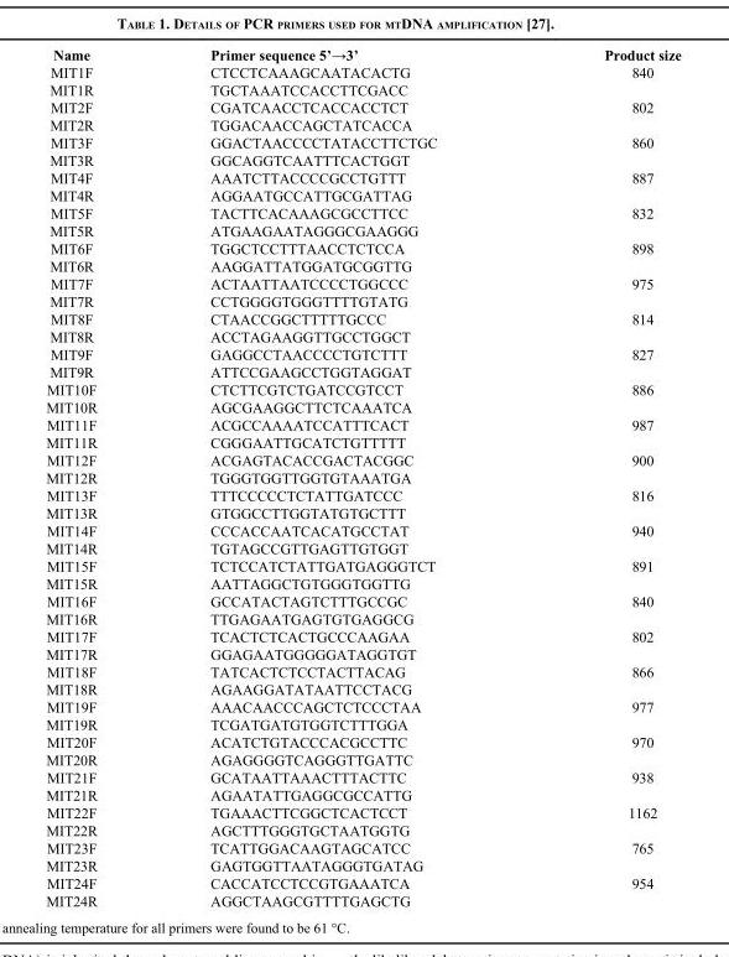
<table><thead><tr><td>Name</td><td>Primer sequence 5’→3’</td><td>Product size</td></tr></thead><tbody><tr><td>MIT1F</td><td>CTCCTCAAAGCAATACACTG</td><td>840</td></tr><tr><td>MIT1R</td><td>TGCTAAATCCACCTTCGACC</td><td></td></tr><tr><td>MIT2F</td><td>CGATCAACCTCACCACCTCT</td><td>802</td></tr><tr><td>MIT2R</td><td>TGGACAACCAGCTATCACCA</td><td></td></tr><tr><td>MIT3F</td><td>GGACTAACCCCTATACCTTCTGC</td><td>860</td></tr><tr><td>MIT3R</td><td>GGCAGGTCAATTTCACTGGT</td><td></td></tr><tr><td>MIT4F</td><td>AAATCTTACCCCGCCTGTTT</td><td>887</td></tr><tr><td>MIT4R</td><td>AGGAATGCCATTGCGATTAG</td><td></td></tr><tr><td>MIT5F</td><td>TACTTCACAAAGCGCCTTCC</td><td>832</td></tr><tr><td>MIT5R</td><td>ATGAAGAATAGGGCGAAGGG</td><td></td></tr><tr><td>MIT6F</td><td>TGGCTCCTTTAACCTCTCCA</td><td>898</td></tr><tr><td>MIT6R</td><td>AAGGATTATGGATGCGGTTG</td><td></td></tr><tr><td>MIT7F</td><td>ACTAATTAATCCCCTGGCCC</td><td>975</td></tr><tr><td>MIT7R</td><td>CCTGGGGTGGGTTTTGTATG</td><td></td></tr><tr><td>MIT8F</td><td>CTAACCGGCTTTTTGCCC</td><td>814</td></tr><tr><td>MIT8R</td><td>ACCTAGAAGGTTGCCTGGCT</td><td></td></tr><tr><td>MIT9F</td><td>GAGGCCTAACCCCTGTCTTT</td><td>827</td></tr><tr><td>MIT9R</td><td>ATTCCGAAGCCTGGTAGGAT</td><td></td></tr><tr><td>MIT10F</td><td>CTCTTCGTCTGATCCGTCCT</td><td>886</td></tr><tr><td>MIT10R</td><td>AGCGAAGGCTTCTCAAATCA</td><td></td></tr><tr><td>MIT11F</td><td>ACGCCAAAATCCATTTCACT</td><td>987</td></tr><tr><td>MIT11R</td><td>CGGGAATTGCATCTGTTTTT</td><td></td></tr><tr><td>MIT12F</td><td>ACGAGTACACCGACTACGGC</td><td>900</td></tr><tr><td>MIT12R</td><td>TGGGTGGTTGGTGTAAATGA</td><td></td></tr><tr><td>MIT13F</td><td>TTTCCCCCTCTATTGATCCC</td><td>816</td></tr><tr><td>MIT13R</td><td>GTGGCCTTGGTATGTGCTTT</td><td></td></tr><tr><td>MIT14F</td><td>CCCACCAATCACATGCCTAT</td><td>940</td></tr><tr><td>MIT14R</td><td>TGTAGCCGTTGAGTTGTGGT</td><td></td></tr><tr><td>MIT15F</td><td>TCTCCATCTATTGATGAGGGTCT</td><td>891</td></tr><tr><td>MIT15R</td><td>AATTAGGCTGTGGGTGGTTG</td><td></td></tr><tr><td>MIT16F</td><td>GCCATACTAGTCTTTGCCGC</td><td>840</td></tr><tr><td>MIT16R</td><td>TTGAGAATGAGTGTGAGGCG</td><td></td></tr><tr><td>MIT17F</td><td>TCACTCTCACTGCCCAAGAA</td><td>802</td></tr><tr><td>MIT17R</td><td>GGAGAATGGGGGATAGGTGT</td><td></td></tr><tr><td>MIT18F</td><td>TATCACTCTCCTACTTACAG</td><td>866</td></tr><tr><td>MIT18R</td><td>AGAAGGATATAATTCCTACG</td><td></td></tr><tr><td>MIT19F</td><td>AAACAACCCAGCTCTCCCTAA</td><td>977</td></tr><tr><td>MIT19R</td><td>TCGATGATGTGGTCTTTGGA</td><td></td></tr><tr><td>MIT20F</td><td>ACATCTGTACCCACGCCTTC</td><td>970</td></tr><tr><td>MIT20R</td><td>AGAGGGGTCAGGGTTGATTC</td><td></td></tr><tr><td>MIT21F</td><td>GCATAATTAAACTTTACTTC</td><td>938</td></tr><tr><td>MIT21R</td><td>AGAATATTGAGGCGCCATTG</td><td></td></tr><tr><td>MIT22F</td><td>TGAAACTTCGGCTCACTCCT</td><td>1162</td></tr><tr><td>MIT22R</td><td>AGCTTTGGGTGCTAATGGTG</td><td></td></tr><tr><td>MIT23F</td><td>TCATTGGACAAGTAGCATCC</td><td>765</td></tr><tr><td>MIT23R</td><td>GAGTGGTTAATAGGGTGATAG</td><td></td></tr><tr><td>MIT24F</td><td>CACCATCCTCCGTGAAATCA</td><td>954</td></tr><tr><td>MIT24R</td><td>AGGCTAAGCGTTTTGAGCTG</td><td></td></tr></tbody></table>